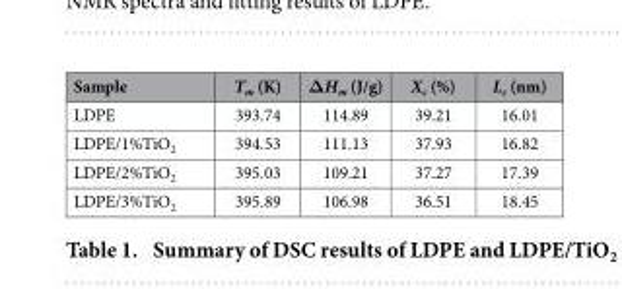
<table><thead><tr><td>Sample</td><td>T<sub>m</sub> (K)</td><td>ΔH<sub>m</sub> (J/g)</td><td>X<sub>c</sub> (%)</td><td>L<sub>c</sub> (nm)</td></tr></thead><tbody><tr><td>LDPE</td><td>393.74</td><td>114.89</td><td>39.21</td><td>16.01</td></tr><tr><td>LDPE/1%TiO<sub>2</sub></td><td>394.53</td><td>111.13</td><td>37.93</td><td>16.82</td></tr><tr><td>LDPE/2%TiO<sub>2</sub></td><td>395.03</td><td>109.21</td><td>37.27</td><td>17.39</td></tr><tr><td>LDPE/3%TiO<sub>2</sub></td><td>395.89</td><td>106.98</td><td>36.51</td><td>18.45</td></tr></tbody></table>